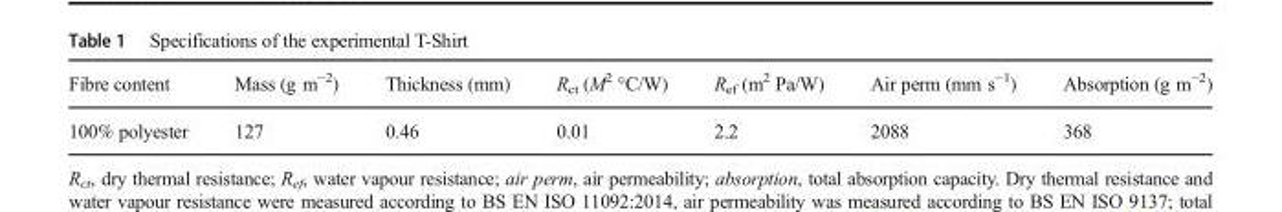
<table><thead><tr><td>Fibre content</td><td>Mass (g m<sup>−2</sup>)</td><td>Thickness (mm)</td><td>R<sub>ct</sub> (M<sup>2</sup> °C/W)</td><td>R<sub>ef</sub> (m<sup>2</sup> Pa/W)</td><td>Air perm (mm s<sup>−1</sup>)</td><td>Absorption (g m<sup>−2</sup>)</td></tr></thead><tbody><tr><td>100% polyester</td><td>127</td><td>0.46</td><td>0.01</td><td>2.2</td><td>2088</td><td>368</td></tr></tbody></table>